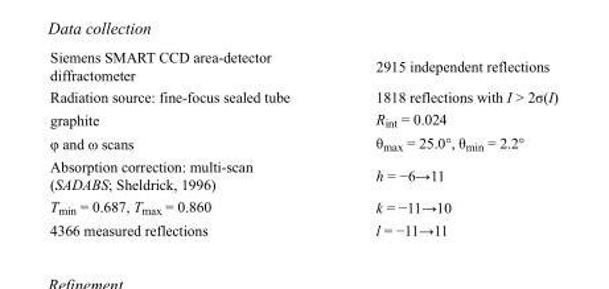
<table><tbody><tr><td>Siemens SMART CCD area-detector diffractometer</td><td>2915 independent reflections</td></tr><tr><td>Radiation source: fine-focus sealed tube</td><td>1818 reflections with I &gt; 2σ(I)</td></tr><tr><td>graphite</td><td>R<sub>int</sub> = 0.024</td></tr><tr><td>φ and ω scans</td><td>θ<sub>max</sub> = 25.0°, θ<sub>min</sub> = 2.2°</td></tr><tr><td>Absorption correction: multi-scan (SADABS; Sheldrick, 1996)</td><td>h = −6→11</td></tr><tr><td>T<sub>min</sub> = 0.687, T<sub>max</sub> = 0.860</td><td>k = −11→10</td></tr><tr><td>4366 measured reflections</td><td>l = −11→11</td></tr></tbody></table>